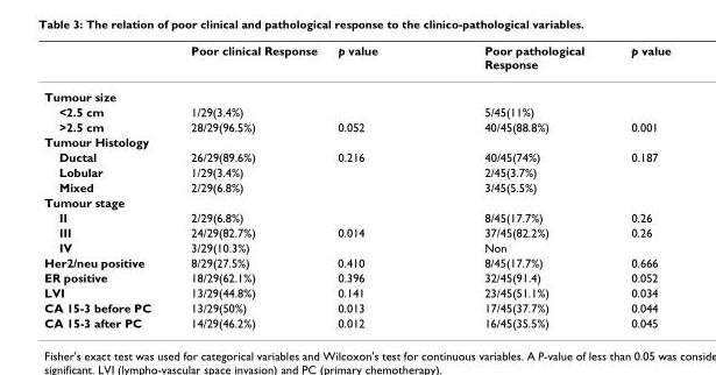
<table><thead><tr><td></td><td>Poor clinical Response</td><td>p value</td><td>Poor pathological Response</td><td>p value</td></tr></thead><tbody><tr><td colspan="5">Tumour size</td></tr><tr><td>&lt;2.5 cm</td><td>1/29(3.4%)</td><td></td><td>5/45(11%)</td><td></td></tr><tr><td>&gt;2.5 cm</td><td>28/29(96.5%)</td><td>0.052</td><td>40/45(88.8%)</td><td>0.001</td></tr><tr><td colspan="5">Tumour Histology</td></tr><tr><td>Ductal</td><td>26/29(89.6%)</td><td>0.216</td><td>40/45(74%)</td><td>0.187</td></tr><tr><td>Lobular</td><td>1/29(3.4%)</td><td></td><td>2/45(3.7%)</td><td></td></tr><tr><td>Mixed</td><td>2/29(6.8%)</td><td></td><td>3/45(5.5%)</td><td></td></tr><tr><td colspan="5">Tumour stage</td></tr><tr><td>II</td><td>2/29(6.8%)</td><td></td><td>8/45(17.7%)</td><td>0.26</td></tr><tr><td>III</td><td>24/29(82.7%)</td><td>0.014</td><td>37/45(82.2%)</td><td>0.26</td></tr><tr><td>IV</td><td>3/29(10.3%)</td><td></td><td>Non</td><td></td></tr><tr><td>Her2/neu positive</td><td>8/29(27.5%)</td><td>0.410</td><td>8/45(17.7%)</td><td>0.666</td></tr><tr><td>ER positive</td><td>18/29(62.1%)</td><td>0.396</td><td>32/45(91.4)</td><td>0.052</td></tr><tr><td>LVI</td><td>13/29(44.8%)</td><td>0.141</td><td>23/45(51.1%)</td><td>0.034</td></tr><tr><td>CA 15-3 before PC</td><td>13/29(50%)</td><td>0.013</td><td>17/45(37.7%)</td><td>0.044</td></tr><tr><td>CA 15-3 after PC</td><td>14/29(46.2%)</td><td>0.012</td><td>16/45(35.5%)</td><td>0.045</td></tr></tbody></table>